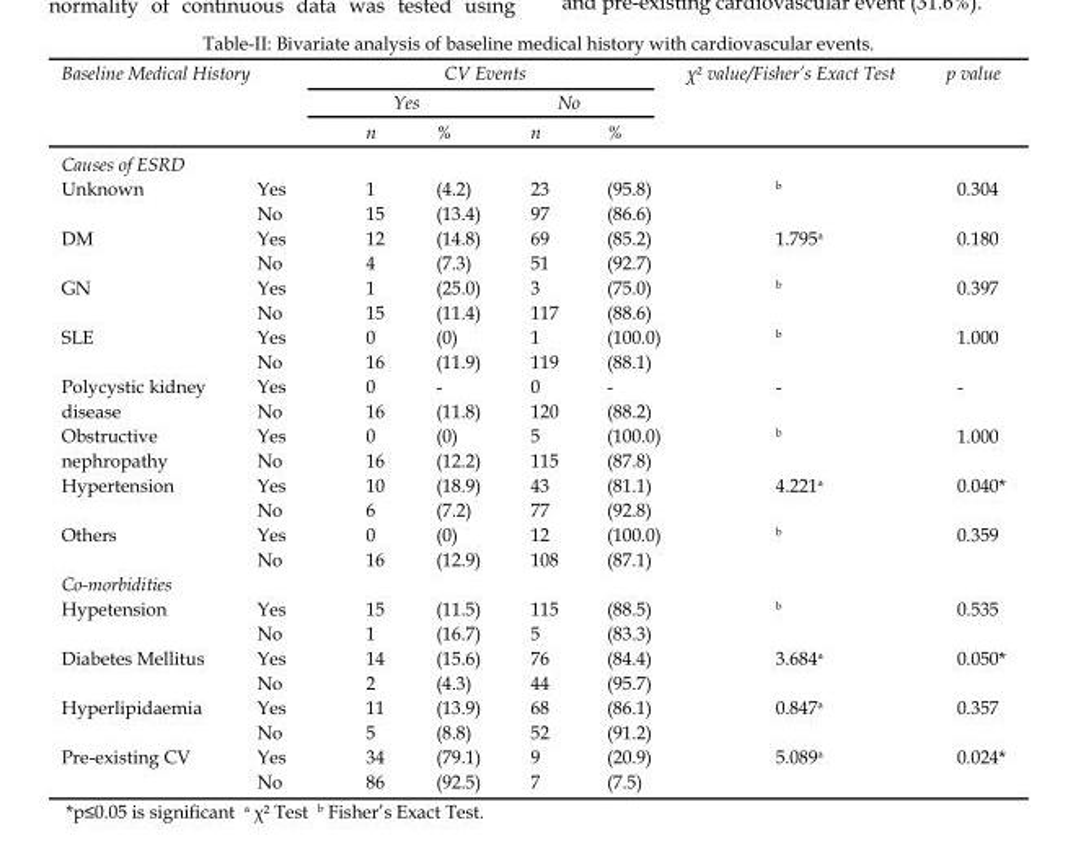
<table><thead><tr><td rowspan="3" colspan="2">Baseline Medical History</td><td colspan="4">CV Events</td><td rowspan="4">χ² value/Fisher’s Exact Test</td><td rowspan="4">p value</td></tr><tr><td colspan="2">Yes</td><td colspan="2">No</td></tr><tr><td rowspan="2">n</td><td rowspan="2">%</td><td rowspan="2">n</td><td rowspan="2">%</td></tr><tr><td>Causes of ESRD</td><td></td></tr></thead><tbody><tr><td rowspan="2">Unknown</td><td>Yes</td><td>1</td><td>(4.2)</td><td>23</td><td>(95.8)</td><td rowspan="2"><sup>b</sup></td><td rowspan="2">0.304</td></tr><tr><td>No</td><td>15</td><td>(13.4)</td><td>97</td><td>(86.6)</td></tr><tr><td rowspan="2">DM</td><td>Yes</td><td>12</td><td>(14.8)</td><td>69</td><td>(85.2)</td><td rowspan="2">1.795<sup>a</sup></td><td rowspan="2">0.180</td></tr><tr><td>No</td><td>4</td><td>(7.3)</td><td>51</td><td>(92.7)</td></tr><tr><td rowspan="2">GN</td><td>Yes</td><td>1</td><td>(25.0)</td><td>3</td><td>(75.0)</td><td rowspan="2"><sup>b</sup></td><td rowspan="2">0.397</td></tr><tr><td>No</td><td>15</td><td>(11.4)</td><td>117</td><td>(88.6)</td></tr><tr><td rowspan="2">SLE</td><td>Yes</td><td>0</td><td>(0)</td><td>1</td><td>(100.0)</td><td rowspan="2"><sup>b</sup></td><td rowspan="2">1.000</td></tr><tr><td>No</td><td>16</td><td>(11.9)</td><td>119</td><td>(88.1)</td></tr><tr><td rowspan="2">Polycystic kidney disease</td><td>Yes</td><td>0</td><td>-</td><td>0</td><td>-</td><td rowspan="2">-</td><td rowspan="2">-</td></tr><tr><td>No</td><td>16</td><td>(11.8)</td><td>120</td><td>(88.2)</td></tr><tr><td rowspan="2">Obstructive nephropathy</td><td>Yes</td><td>0</td><td>(0)</td><td>5</td><td>(100.0)</td><td rowspan="2"><sup>b</sup></td><td rowspan="2">1.000</td></tr><tr><td>No</td><td>16</td><td>(12.2)</td><td>115</td><td>(87.8)</td></tr><tr><td rowspan="2">Hypertension</td><td>Yes</td><td>10</td><td>(18.9)</td><td>43</td><td>(81.1)</td><td rowspan="2">4.221<sup>a</sup></td><td rowspan="2">0.040*</td></tr><tr><td>No</td><td>6</td><td>(7.2)</td><td>77</td><td>(92.8)</td></tr><tr><td rowspan="2">Others</td><td>Yes</td><td>0</td><td>(0)</td><td>12</td><td>(100.0)</td><td rowspan="2"><sup>b</sup></td><td rowspan="2">0.359</td></tr><tr><td>No</td><td>16</td><td>(12.9)</td><td>108</td><td>(87.1)</td></tr><tr><td colspan="8">Co-morbidities</td></tr><tr><td rowspan="2">Hypetension</td><td>Yes</td><td>15</td><td>(11.5)</td><td>115</td><td>(88.5)</td><td rowspan="2"><sup>b</sup></td><td rowspan="2">0.535</td></tr><tr><td>No</td><td>1</td><td>(16.7)</td><td>5</td><td>(83.3)</td></tr><tr><td rowspan="2">Diabetes Mellitus</td><td>Yes</td><td>14</td><td>(15.6)</td><td>76</td><td>(84.4)</td><td rowspan="2">3.684<sup>a</sup></td><td rowspan="2">0.050*</td></tr><tr><td>No</td><td>2</td><td>(4.3)</td><td>44</td><td>(95.7)</td></tr><tr><td rowspan="2">Hyperlipidaemia</td><td>Yes</td><td>11</td><td>(13.9)</td><td>68</td><td>(86.1)</td><td rowspan="2">0.847<sup>a</sup></td><td rowspan="2">0.357</td></tr><tr><td>No</td><td>5</td><td>(8.8)</td><td>52</td><td>(91.2)</td></tr><tr><td rowspan="2">Pre-existing CV</td><td>Yes</td><td>34</td><td>(79.1)</td><td>9</td><td>(20.9)</td><td rowspan="2">5.089<sup>a</sup></td><td rowspan="2">0.024*</td></tr><tr><td>No</td><td>86</td><td>(92.5)</td><td>7</td><td>(7.5)</td></tr></tbody></table>